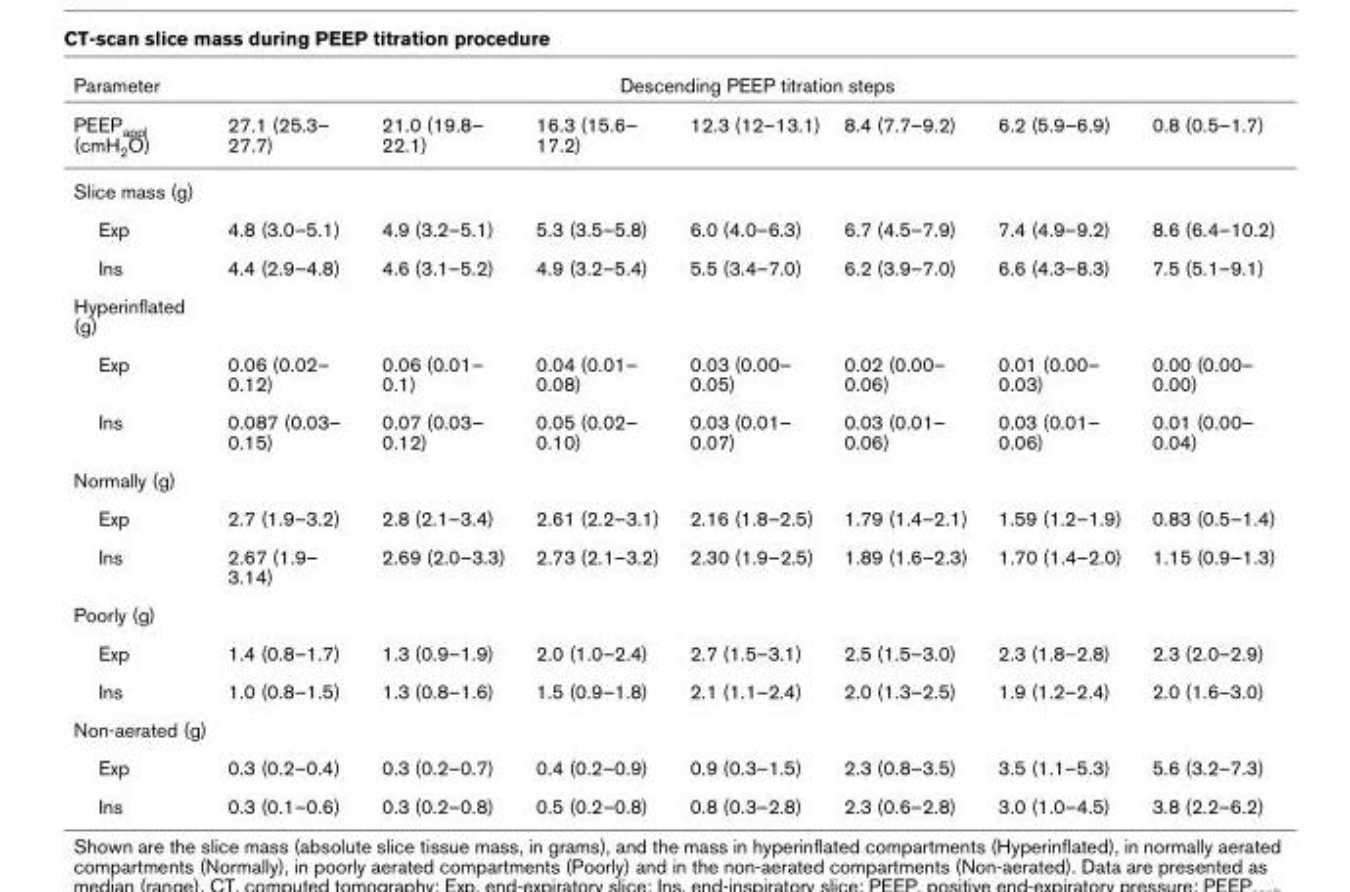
<table><thead><tr><td rowspan="2">Parameter PEEP<sub>appl</sub> (cmH<sub>2</sub>O)</td><td colspan="7">Descending PEEP titration steps</td></tr><tr><td>27.1 (25.3– 27.7)</td><td>21.0 (19.8– 22.1)</td><td>16.3 (15.6– 17.2)</td><td>12.3 (12–13.1)</td><td>8.4 (7.7–9.2)</td><td>6.2 (5.9–6.9)</td><td>0.8 (0.5–1.7)</td></tr></thead><tbody><tr><td colspan="8">Slice mass (g)</td></tr><tr><td>Exp</td><td>4.8 (3.0–5.1)</td><td>4.9 (3.2–5.1)</td><td>5.3 (3.5–5.8)</td><td>6.0 (4.0–6.3)</td><td>6.7 (4.5–7.9)</td><td>7.4 (4.9–9.2)</td><td>8.6 (6.4–10.2)</td></tr><tr><td>Ins</td><td>4.4 (2.9–4.8)</td><td>4.6 (3.1–5.2)</td><td>4.9 (3.2–5.4)</td><td>5.5 (3.4–7.0)</td><td>6.2 (3.9–7.0)</td><td>6.6 (4.3–8.3)</td><td>7.5 (5.1–9.1)</td></tr><tr><td colspan="8">Hyperinflated (g)</td></tr><tr><td>Exp</td><td>0.06 (0.02– 0.12)</td><td>0.06 (0.01– 0.1)</td><td>0.04 (0.01– 0.08)</td><td>0.03 (0.00– 0.05)</td><td>0.02 (0.00– 0.06)</td><td>0.01 (0.00– 0.03)</td><td>0.00 (0.00– 0.00)</td></tr><tr><td>Ins</td><td>0.087 (0.03– 0.15)</td><td>0.07 (0.03– 0.12)</td><td>0.05 (0.02– 0.10)</td><td>0.03 (0.01– 0.07)</td><td>0.03 (0.01– 0.06)</td><td>0.03 (0.01– 0.06)</td><td>0.01 (0.00– 0.04)</td></tr><tr><td colspan="8">Normally (g)</td></tr><tr><td>Exp</td><td>2.7 (1.9–3.2)</td><td>2.8 (2.1–3.4)</td><td>2.61 (2.2–3.1)</td><td>2.16 (1.8–2.5)</td><td>1.79 (1.4–2.1)</td><td>1.59 (1.2–1.9)</td><td>0.83 (0.5–1.4)</td></tr><tr><td>Ins</td><td>2.67 (1.9– 3.14)</td><td>2.69 (2.0–3.3)</td><td>2.73 (2.1–3.2)</td><td>2.30 (1.9–2.5)</td><td>1.89 (1.6–2.3)</td><td>1.70 (1.4–2.0)</td><td>1.15 (0.9–1.3)</td></tr><tr><td colspan="8">Poorly (g)</td></tr><tr><td>Exp</td><td>1.4 (0.8–1.7)</td><td>1.3 (0.9–1.9)</td><td>2.0 (1.0–2.4)</td><td>2.7 (1.5–3.1)</td><td>2.5 (1.5–3.0)</td><td>2.3 (1.8–2.8)</td><td>2.3 (2.0–2.9)</td></tr><tr><td>Ins</td><td>1.0 (0.8–1.5)</td><td>1.3 (0.8–1.6)</td><td>1.5 (0.9–1.8)</td><td>2.1 (1.1–2.4)</td><td>2.0 (1.3–2.5)</td><td>1.9 (1.2–2.4)</td><td>2.0 (1.6–3.0)</td></tr><tr><td colspan="8">Non-aerated (g)</td></tr><tr><td>Exp</td><td>0.3 (0.2–0.4)</td><td>0.3 (0.2–0.7)</td><td>0.4 (0.2–0.9)</td><td>0.9 (0.3–1.5)</td><td>2.3 (0.8–3.5)</td><td>3.5 (1.1–5.3)</td><td>5.6 (3.2–7.3)</td></tr><tr><td>Ins</td><td>0.3 (0.1–0.6)</td><td>0.3 (0.2–0.8)</td><td>0.5 (0.2–0.8)</td><td>0.8 (0.3–2.8)</td><td>2.3 (0.6–2.8)</td><td>3.0 (1.0–4.5)</td><td>3.8 (2.2–6.2)</td></tr></tbody></table>